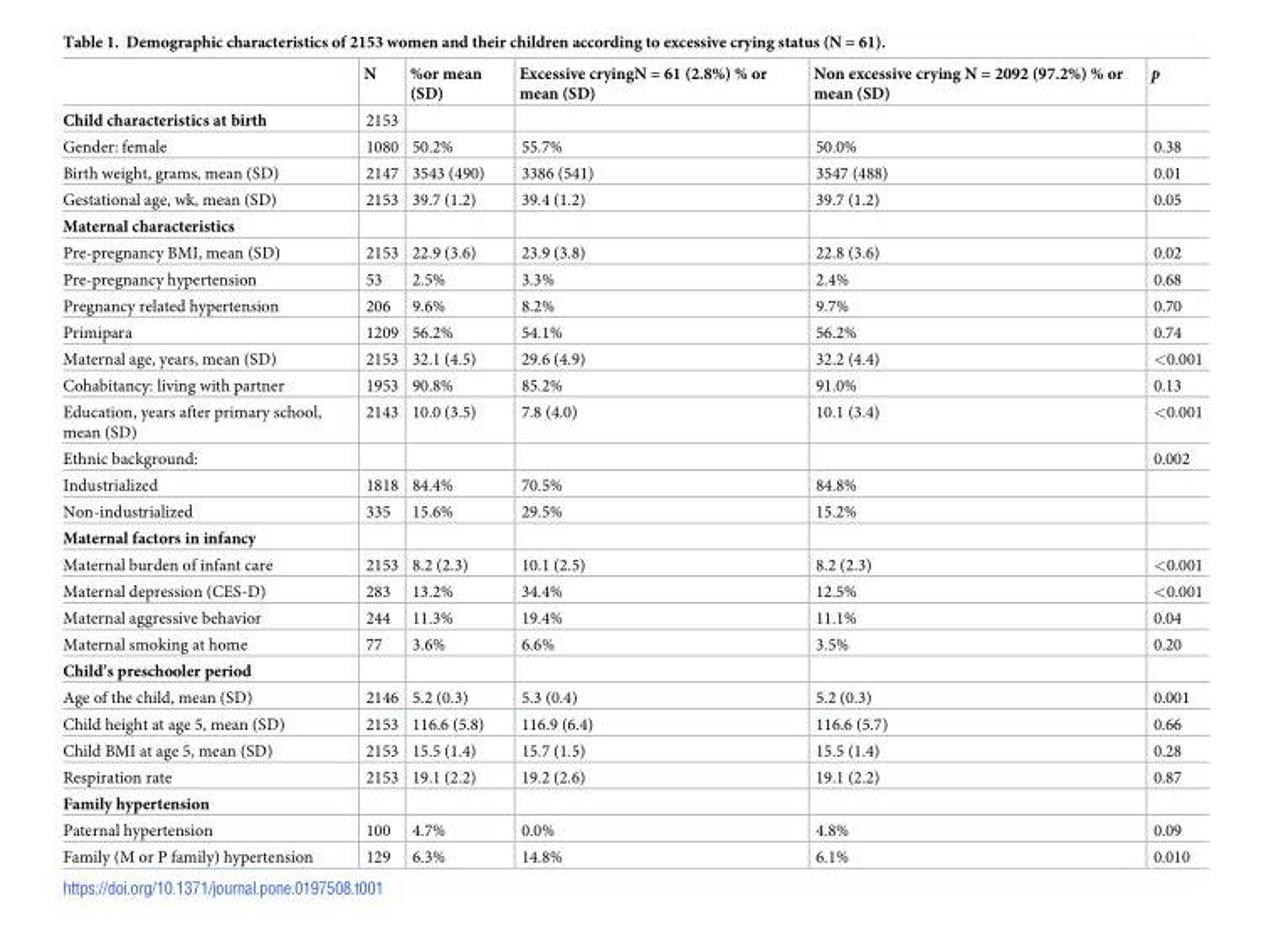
<table><thead><tr><td></td><td>N</td><td>%or mean (SD)</td><td>Excessive cryingN = 61 (2.8%) % or mean (SD)</td><td>Non excessive crying N = 2092 (97.2%) % or mean (SD)</td><td>p</td></tr></thead><tbody><tr><td>Child characteristics at birth</td><td>2153</td><td></td><td></td><td></td><td></td></tr><tr><td>Gender: female</td><td>1080</td><td>50.2%</td><td>55.7%</td><td>50.0%</td><td>0.38</td></tr><tr><td>Birth weight, grams, mean (SD)</td><td>2147</td><td>3543 (490)</td><td>3386 (541)</td><td>3547 (488)</td><td>0.01</td></tr><tr><td>Gestational age, wk, mean (SD)</td><td>2153</td><td>39.7 (1.2)</td><td>39.4 (1.2)</td><td>39.7 (1.2)</td><td>0.05</td></tr><tr><td colspan="6">Maternal characteristics</td></tr><tr><td>Pre-pregnancy BMI, mean (SD)</td><td>2153</td><td>22.9 (3.6)</td><td>23.9 (3.8)</td><td>22.8 (3.6)</td><td>0.02</td></tr><tr><td>Pre-pregnancy hypertension</td><td>53</td><td>2.5%</td><td>3.3%</td><td>2.4%</td><td>0.68</td></tr><tr><td>Pregnancy related hypertension</td><td>206</td><td>9.6%</td><td>8.2%</td><td>9.7%</td><td>0.70</td></tr><tr><td>Primipara</td><td>1209</td><td>56.2%</td><td>54.1%</td><td>56.2%</td><td>0.74</td></tr><tr><td>Maternal age, years, mean (SD)</td><td>2153</td><td>32.1 (4.5)</td><td>29.6 (4.9)</td><td>32.2 (4.4)</td><td>&lt;0.001</td></tr><tr><td>Cohabitancy: living with partner</td><td>1953</td><td>90.8%</td><td>85.2%</td><td>91.0%</td><td>0.13</td></tr><tr><td>Education, years after primary school, mean (SD)</td><td>2143</td><td>10.0 (3.5)</td><td>7.8 (4.0)</td><td>10.1 (3.4)</td><td>&lt;0.001</td></tr><tr><td>Ethnic background:</td><td></td><td></td><td></td><td></td><td>0.002</td></tr><tr><td>Industrialized</td><td>1818</td><td>84.4%</td><td>70.5%</td><td>84.8%</td><td></td></tr><tr><td>Non-industrialized</td><td>335</td><td>15.6%</td><td>29.5%</td><td>15.2%</td><td></td></tr><tr><td colspan="6">Maternal factors in infancy</td></tr><tr><td>Maternal burden of infant care</td><td>2153</td><td>8.2 (2.3)</td><td>10.1 (2.5)</td><td>8.2 (2.3)</td><td>&lt;0.001</td></tr><tr><td>Maternal depression (CES-D)</td><td>283</td><td>13.2%</td><td>34.4%</td><td>12.5%</td><td>&lt;0.001</td></tr><tr><td>Maternal aggressive behavior</td><td>244</td><td>11.3%</td><td>19.4%</td><td>11.1%</td><td>0.04</td></tr><tr><td>Maternal smoking at home</td><td>77</td><td>3.6%</td><td>6.6%</td><td>3.5%</td><td>0.20</td></tr><tr><td colspan="6">Child’s preschooler period</td></tr><tr><td>Age of the child, mean (SD)</td><td>2146</td><td>5.2 (0.3)</td><td>5.3 (0.4)</td><td>5.2 (0.3)</td><td>0.001</td></tr><tr><td>Child height at age 5, mean (SD)</td><td>2153</td><td>116.6 (5.8)</td><td>116.9 (6.4)</td><td>116.6 (5.7)</td><td>0.66</td></tr><tr><td>Child BMI at age 5, mean (SD)</td><td>2153</td><td>15.5 (1.4)</td><td>15.7 (1.5)</td><td>15.5 (1.4)</td><td>0.28</td></tr><tr><td>Respiration rate</td><td>2153</td><td>19.1 (2.2)</td><td>19.2 (2.6)</td><td>19.1 (2.2)</td><td>0.87</td></tr><tr><td colspan="6">Family hypertension</td></tr><tr><td>Paternal hypertension</td><td>100</td><td>4.7%</td><td>0.0%</td><td>4.8%</td><td>0.09</td></tr><tr><td>Family (M or P family) hypertension</td><td>129</td><td>6.3%</td><td>14.8%</td><td>6.1%</td><td>0.010</td></tr></tbody></table>